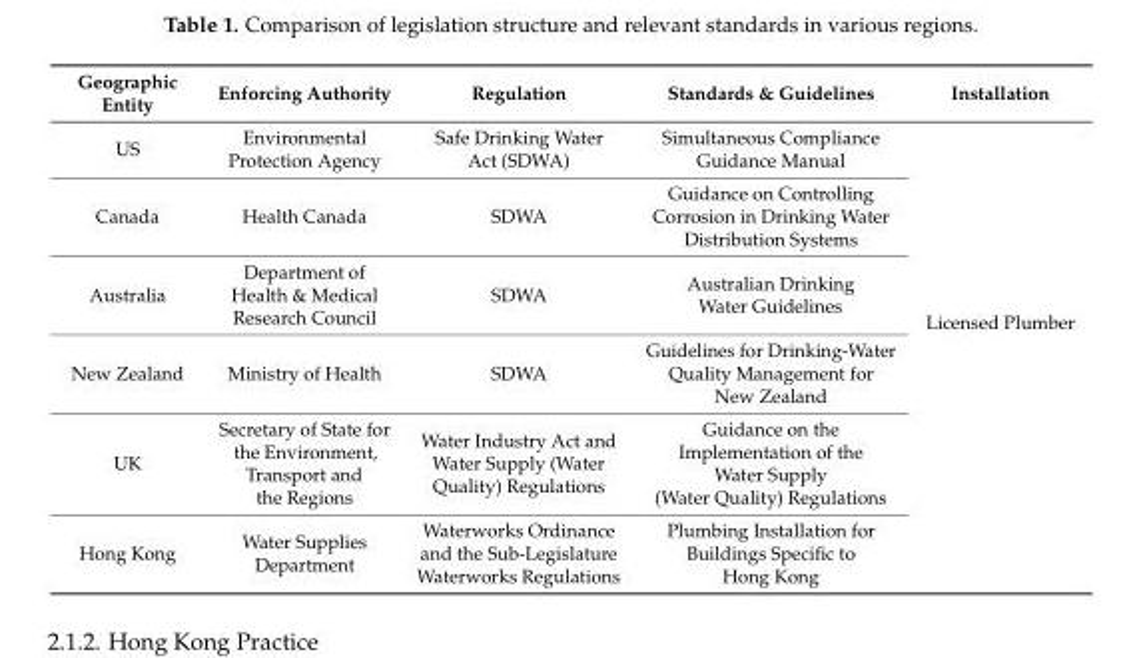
<table><thead><tr><td>Geographic Entity</td><td>Enforcing Authority</td><td>Regulation</td><td>Standards &amp; Guidelines</td><td>Installation</td></tr></thead><tbody><tr><td>US</td><td>Environmental Protection Agency</td><td>Safe Drinking Water Act (SDWA)</td><td>Simultaneous Compliance Guidance Manual</td><td rowspan="6">Licensed Plumber</td></tr><tr><td>Canada</td><td>Health Canada</td><td>SDWA</td><td>Guidance on Controlling Corrosion in Drinking Water Distribution Systems</td></tr><tr><td>Australia</td><td>Department of Health &amp; Medical Research Council</td><td>SDWA</td><td>Australian Drinking Water Guidelines</td></tr><tr><td>New Zealand</td><td>Ministry of Health</td><td>SDWA</td><td>Guidelines for Drinking-Water Quality Management for New Zealand</td></tr><tr><td>UK</td><td>Secretary of State for the Environment, Transport and the Regions</td><td>Water Industry Act and Water Supply (Water Quality) Regulations</td><td>Guidance on the Implementation of the Water Supply (Water Quality) Regulations</td></tr><tr><td>Hong Kong</td><td>Water Supplies Department</td><td>Waterworks Ordinance and the Sub-Legislature Waterworks Regulations</td><td>Plumbing Installation for Buildings Specific to Hong Kong</td></tr></tbody></table>